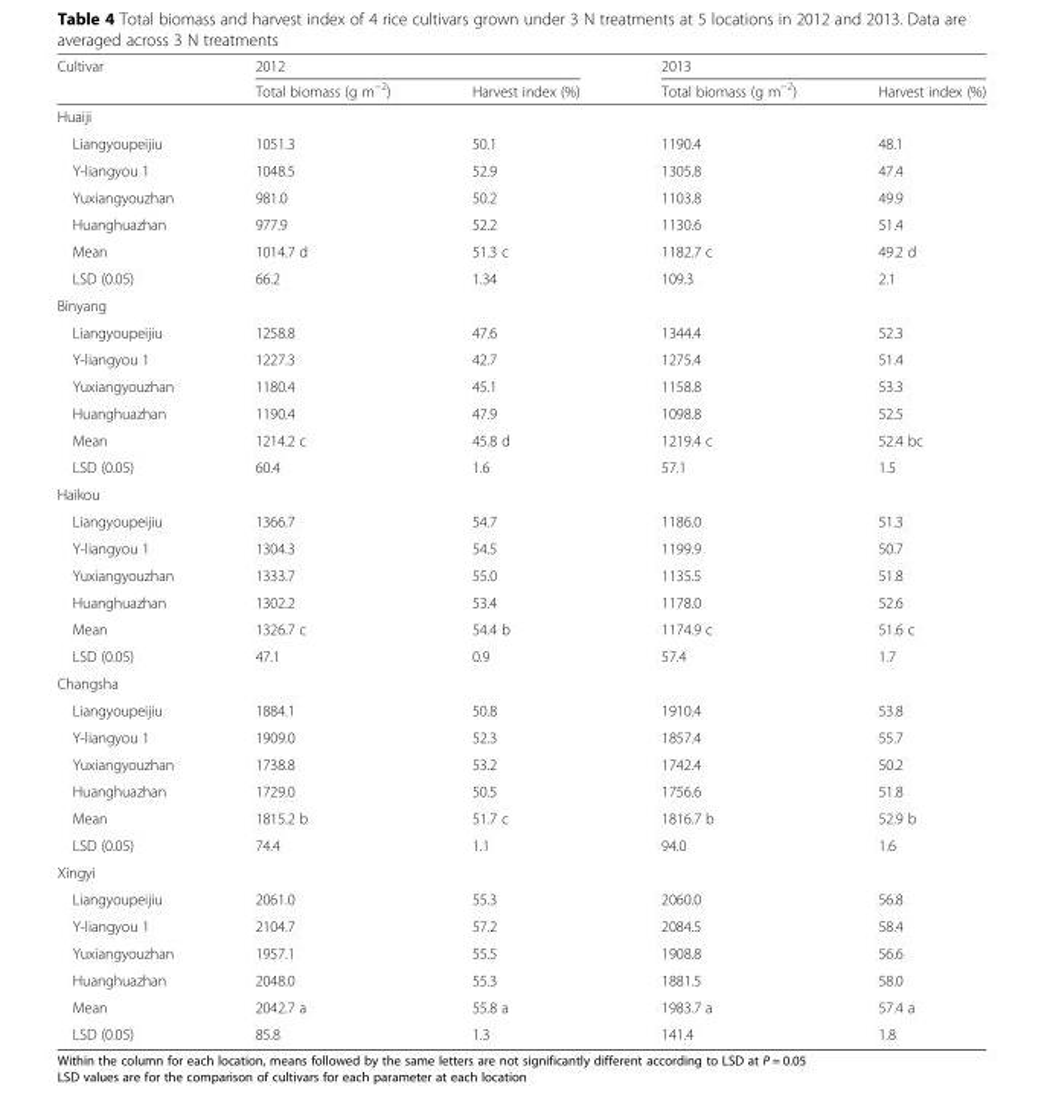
<table><thead><tr><td rowspan="2">Cultivar</td><td colspan="2">2012</td><td colspan="2">2013</td></tr><tr><td>Total biomass (g m<sup>−2</sup>)</td><td>Harvest index (%)</td><td>Total biomass (g m<sup>−2</sup>)</td><td>Harvest index (%)</td></tr></thead><tbody><tr><td colspan="5">Huaiji</td></tr><tr><td>Liangyoupeijiu</td><td>1051.3</td><td>50.1</td><td>1190.4</td><td>48.1</td></tr><tr><td>Y-liangyou 1</td><td>1048.5</td><td>52.9</td><td>1305.8</td><td>47.4</td></tr><tr><td>Yuxiangyouzhan</td><td>981.0</td><td>50.2</td><td>1103.8</td><td>49.9</td></tr><tr><td>Huanghuazhan</td><td>977.9</td><td>52.2</td><td>1130.6</td><td>51.4</td></tr><tr><td>Mean</td><td>1014.7 d</td><td>51.3 c</td><td>1182.7 c</td><td>49.2 d</td></tr><tr><td>LSD (0.05)</td><td>66.2</td><td>1.34</td><td>109.3</td><td>2.1</td></tr><tr><td colspan="5">Binyang</td></tr><tr><td>Liangyoupeijiu</td><td>1258.8</td><td>47.6</td><td>1344.4</td><td>52.3</td></tr><tr><td>Y-liangyou 1</td><td>1227.3</td><td>42.7</td><td>1275.4</td><td>51.4</td></tr><tr><td>Yuxiangyouzhan</td><td>1180.4</td><td>45.1</td><td>1158.8</td><td>53.3</td></tr><tr><td>Huanghuazhan</td><td>1190.4</td><td>47.9</td><td>1098.8</td><td>52.5</td></tr><tr><td>Mean</td><td>1214.2 c</td><td>45.8 d</td><td>1219.4 c</td><td>52.4 bc</td></tr><tr><td>LSD (0.05)</td><td>60.4</td><td>1.6</td><td>57.1</td><td>1.5</td></tr><tr><td colspan="5">Haikou</td></tr><tr><td>Liangyoupeijiu</td><td>1366.7</td><td>54.7</td><td>1186.0</td><td>51.3</td></tr><tr><td>Y-liangyou 1</td><td>1304.3</td><td>54.5</td><td>1199.9</td><td>50.7</td></tr><tr><td>Yuxiangyouzhan</td><td>1333.7</td><td>55.0</td><td>1135.5</td><td>51.8</td></tr><tr><td>Huanghuazhan</td><td>1302.2</td><td>53.4</td><td>1178.0</td><td>52.6</td></tr><tr><td>Mean</td><td>1326.7 c</td><td>54.4 b</td><td>1174.9 c</td><td>51.6 c</td></tr><tr><td>LSD (0.05)</td><td>47.1</td><td>0.9</td><td>57.4</td><td>1.7</td></tr><tr><td colspan="5">Changsha</td></tr><tr><td>Liangyoupeijiu</td><td>1884.1</td><td>50.8</td><td>1910.4</td><td>53.8</td></tr><tr><td>Y-liangyou 1</td><td>1909.0</td><td>52.3</td><td>1857.4</td><td>55.7</td></tr><tr><td>Yuxiangyouzhan</td><td>1738.8</td><td>53.2</td><td>1742.4</td><td>50.2</td></tr><tr><td>Huanghuazhan</td><td>1729.0</td><td>50.5</td><td>1756.6</td><td>51.8</td></tr><tr><td>Mean</td><td>1815.2 b</td><td>51.7 c</td><td>1816.7 b</td><td>52.9 b</td></tr><tr><td>LSD (0.05)</td><td>74.4</td><td>1.1</td><td>94.0</td><td>1.6</td></tr><tr><td colspan="5">Xingyi</td></tr><tr><td>Liangyoupeijiu</td><td>2061.0</td><td>55.3</td><td>2060.0</td><td>56.8</td></tr><tr><td>Y-liangyou 1</td><td>2104.7</td><td>57.2</td><td>2084.5</td><td>58.4</td></tr><tr><td>Yuxiangyouzhan</td><td>1957.1</td><td>55.5</td><td>1908.8</td><td>56.6</td></tr><tr><td>Huanghuazhan</td><td>2048.0</td><td>55.3</td><td>1881.5</td><td>58.0</td></tr><tr><td>Mean</td><td>2042.7 a</td><td>55.8 a</td><td>1983.7 a</td><td>57.4 a</td></tr><tr><td>LSD (0.05)</td><td>85.8</td><td>1.3</td><td>141.4</td><td>1.8</td></tr></tbody></table>